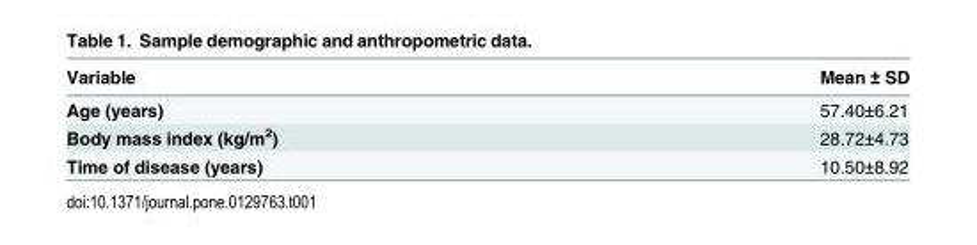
<table><thead><tr><td>Variable</td><td>Mean ± SD</td></tr></thead><tbody><tr><td>Age (years)</td><td>57.40±6.21</td></tr><tr><td>Body mass index (kg/m<sup>2</sup>)</td><td>28.72±4.73</td></tr><tr><td>Time of disease (years)</td><td>10.50±8.92</td></tr></tbody></table>